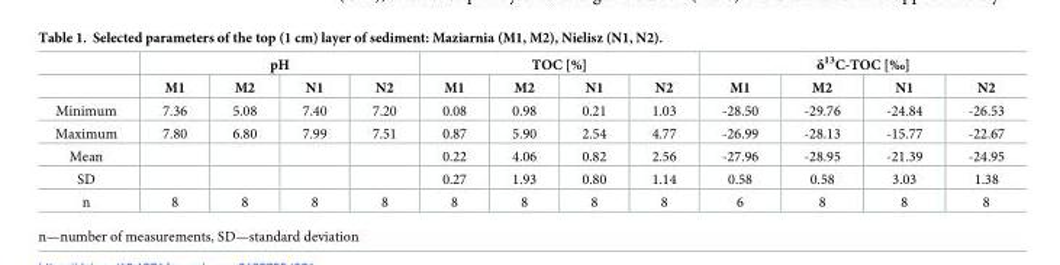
<table><thead><tr><td rowspan="2"></td><td colspan="4">pH</td><td colspan="4">TOC [%]</td><td colspan="4">δ<sup>13</sup>C-TOC [‰]</td></tr><tr><td>M1</td><td>M2</td><td>N1</td><td>N2</td><td>M1</td><td>M2</td><td>N1</td><td>N2</td><td>M1</td><td>M2</td><td>N1</td><td>N2</td></tr></thead><tbody><tr><td>Minimum</td><td>7.36</td><td>5.08</td><td>7.40</td><td>7.20</td><td>0.08</td><td>0.98</td><td>0.21</td><td>1.03</td><td>-28.50</td><td>-29.76</td><td>-24.84</td><td>-26.53</td></tr><tr><td>Maximum</td><td>7.80</td><td>6.80</td><td>7.99</td><td>7.51</td><td>0.87</td><td>5.90</td><td>2.54</td><td>4.77</td><td>-26.99</td><td>-28.13</td><td>-15.77</td><td>-22.67</td></tr><tr><td>Mean</td><td></td><td></td><td></td><td></td><td>0.22</td><td>4.06</td><td>0.82</td><td>2.56</td><td>-27.96</td><td>-28.95</td><td>-21.39</td><td>-24.95</td></tr><tr><td>SD</td><td></td><td></td><td></td><td></td><td>0.27</td><td>1.93</td><td>0.80</td><td>1.14</td><td>0.58</td><td>0.58</td><td>3.03</td><td>1.38</td></tr><tr><td>n</td><td>8</td><td>8</td><td>8</td><td>8</td><td>8</td><td>8</td><td>8</td><td>8</td><td>6</td><td>8</td><td>8</td><td>8</td></tr></tbody></table>